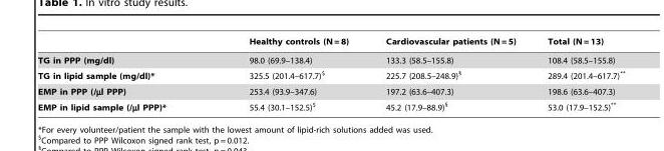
<table><thead><tr><td></td><td>Healthy controls (N = 8)</td><td>Cardiovascular patients (N = 5)</td><td>Total (N = 13)</td></tr></thead><tbody><tr><td>TG in PPP (mg/dl)</td><td>98.0 (69.9–138.4)</td><td>133.3 (58.5–155.8)</td><td>108.4 (58.5–155.8)</td></tr><tr><td>TG in lipid sample (mg/dl)*</td><td>325.5 (201.4–617.7)$</td><td>225.7 (208.5–248.9)§</td><td>289.4 (201.4–617.7)**</td></tr><tr><td>EMP in PPP (/µl PPP)</td><td>253.4 (93.9–347.6)</td><td>197.2 (63.6–407.3)</td><td>198.6 (63.6–407.3)</td></tr><tr><td>EMP in lipid sample (/µl PPP)*</td><td>55.4 (30.1–152.5)$</td><td>45.2 (17.9–88.9)§</td><td>53.0 (17.9–152.5)**</td></tr></tbody></table>